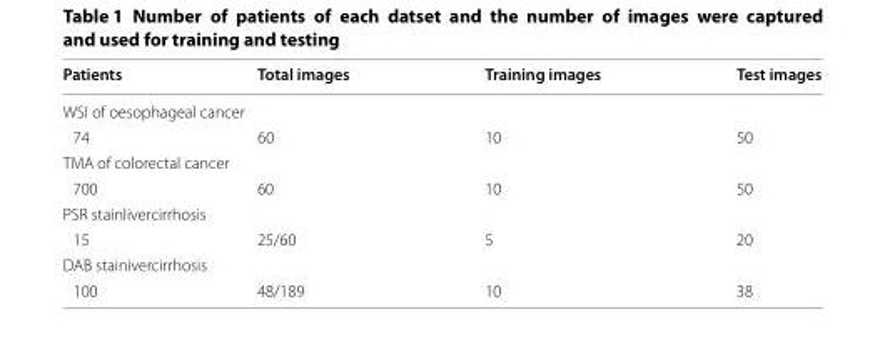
<table><thead><tr><td>Patients</td><td>Total images</td><td>Training images</td><td>Test images</td></tr></thead><tbody><tr><td colspan="4">WSI of oesophageal cancer</td></tr><tr><td>74</td><td>60</td><td>10</td><td>50</td></tr><tr><td colspan="4">TMA of colorectal cancer</td></tr><tr><td>700</td><td>60</td><td>10</td><td>50</td></tr><tr><td colspan="4">PSR stainlivercirrhosis</td></tr><tr><td>15</td><td>25/60</td><td>5</td><td>20</td></tr><tr><td colspan="4">DAB stainivercirrhosis</td></tr><tr><td>100</td><td>48/189</td><td>10</td><td>38</td></tr></tbody></table>